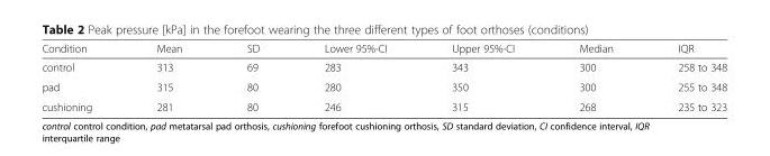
<table><thead><tr><td>Condition</td><td>Mean</td><td>SD</td><td>Lower 95%-CI</td><td>Upper 95%-CI</td><td>Median</td><td>IQR</td></tr></thead><tbody><tr><td>control</td><td>313</td><td>69</td><td>283</td><td>343</td><td>300</td><td>258 to 348</td></tr><tr><td>pad</td><td>315</td><td>80</td><td>280</td><td>350</td><td>300</td><td>255 to 348</td></tr><tr><td>cushioning</td><td>281</td><td>80</td><td>246</td><td>315</td><td>268</td><td>235 to 323</td></tr></tbody></table>